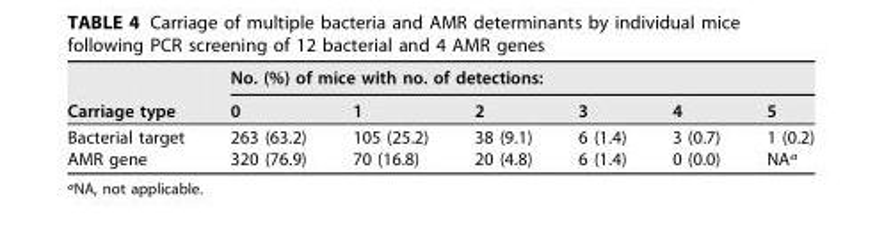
<table><thead><tr><td rowspan="2">Carriage type</td><td colspan="6">No. (%) of mice with no. of detections:</td></tr><tr><td>0</td><td>1</td><td>2</td><td>3</td><td>4</td><td>5</td></tr></thead><tbody><tr><td>Bacterial target</td><td>263 (63.2)</td><td>105 (25.2)</td><td>38 (9.1)</td><td>6 (1.4)</td><td>3 (0.7)</td><td>1 (0.2)</td></tr><tr><td>AMR gene</td><td>320 (76.9)</td><td>70 (16.8)</td><td>20 (4.8)</td><td>6 (1.4)</td><td>0 (0.0)</td><td>NA<sup>a</sup></td></tr></tbody></table>